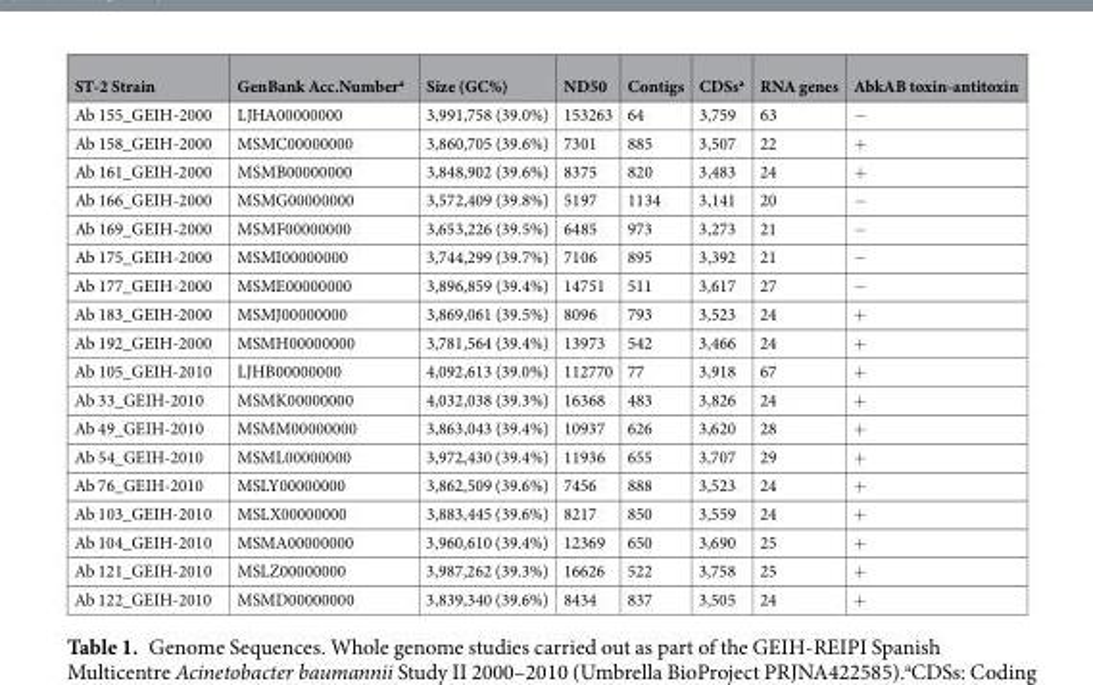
<table><thead><tr><td>ST-2 Strain</td><td>GenBank Acc.Number<sup>a</sup></td><td>Size (GC%)</td><td>ND50</td><td>Contigs</td><td>CDSs<sup>a</sup></td><td>RNA genes</td><td>AbkAB toxin-antitoxin</td></tr></thead><tbody><tr><td>Ab 155_GEIH-2000</td><td>LJHA00000000</td><td>3,991,758 (39.0%)</td><td>153263</td><td>64</td><td>3,759</td><td>63</td><td>−</td></tr><tr><td>Ab 158_GEIH-2000</td><td>MSMC00000000</td><td>3,860,705 (39.6%)</td><td>7301</td><td>885</td><td>3,507</td><td>22</td><td>+</td></tr><tr><td>Ab 161_GEIH-2000</td><td>MSMB00000000</td><td>3,848,902 (39.6%)</td><td>8375</td><td>820</td><td>3,483</td><td>24</td><td>+</td></tr><tr><td>Ab 166_GEIH-2000</td><td>MSMG00000000</td><td>3,572,409 (39.8%)</td><td>5197</td><td>1134</td><td>3,141</td><td>20</td><td>−</td></tr><tr><td>Ab 169_GEIH-2000</td><td>MSMF00000000</td><td>3,653,226 (39.5%)</td><td>6485</td><td>973</td><td>3,273</td><td>21</td><td>−</td></tr><tr><td>Ab 175_GEIH-2000</td><td>MSMI00000000</td><td>3,744,299 (39.7%)</td><td>7106</td><td>895</td><td>3,392</td><td>21</td><td>−</td></tr><tr><td>Ab 177_GEIH-2000</td><td>MSME00000000</td><td>3,896,859 (39.4%)</td><td>14751</td><td>511</td><td>3,617</td><td>27</td><td>−</td></tr><tr><td>Ab 183_GEIH-2000</td><td>MSMJ00000000</td><td>3,869,061 (39.5%)</td><td>8096</td><td>793</td><td>3,523</td><td>24</td><td>+</td></tr><tr><td>Ab 192_GEIH-2000</td><td>MSMH00000000</td><td>3,781,564 (39.4%)</td><td>13973</td><td>542</td><td>3,466</td><td>24</td><td>+</td></tr><tr><td>Ab 105_GEIH-2010</td><td>LJHB00000000</td><td>4,092,613 (39.0%)</td><td>112770</td><td>77</td><td>3,918</td><td>67</td><td>+</td></tr><tr><td>Ab 33_GEIH-2010</td><td>MSMK00000000</td><td>4,032,038 (39.3%)</td><td>16368</td><td>483</td><td>3,826</td><td>24</td><td>+</td></tr><tr><td>Ab 49_GEIH-2010</td><td>MSMM00000000</td><td>3,863,043 (39.4%)</td><td>10937</td><td>626</td><td>3,620</td><td>28</td><td>+</td></tr><tr><td>Ab 54_GEIH-2010</td><td>MSML00000000</td><td>3,972,430 (39.4%)</td><td>11936</td><td>655</td><td>3,707</td><td>29</td><td>+</td></tr><tr><td>Ab 76_GEIH-2010</td><td>MSLY00000000</td><td>3,862,509 (39.6%)</td><td>7456</td><td>888</td><td>3,523</td><td>24</td><td>+</td></tr><tr><td>Ab 103_GEIH-2010</td><td>MSLX00000000</td><td>3,883,445 (39.6%)</td><td>8217</td><td>850</td><td>3,559</td><td>24</td><td>+</td></tr><tr><td>Ab 104_GEIH-2010</td><td>MSMA00000000</td><td>3,960,610 (39.4%)</td><td>12369</td><td>650</td><td>3,690</td><td>25</td><td>+</td></tr><tr><td>Ab 121_GEIH-2010</td><td>MSLZ00000000</td><td>3,987,262 (39.3%)</td><td>16626</td><td>522</td><td>3,758</td><td>25</td><td>+</td></tr><tr><td>Ab 122_GEIH-2010</td><td>MSMD00000000</td><td>3,839,340 (39.6%)</td><td>8434</td><td>837</td><td>3,505</td><td>24</td><td>+</td></tr></tbody></table>